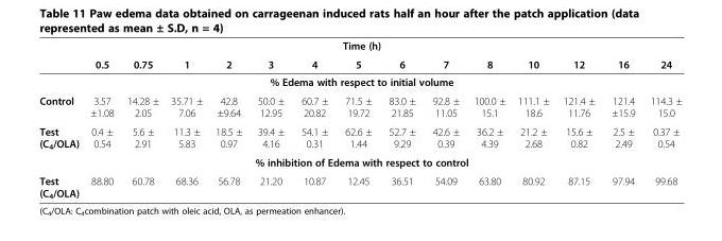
<table><tbody><tr><td colspan="15">Time (h)</td></tr><tr><td></td><td>0.5</td><td>0.75</td><td>1</td><td>2</td><td>3</td><td>4</td><td>5</td><td>6</td><td>7</td><td>8</td><td>10</td><td>12</td><td>16</td><td>24</td></tr><tr><td colspan="15">% Edema with respect to initial volume</td></tr><tr><td>Control</td><td>3.57 ±1.08</td><td>14.28 ± 2.05</td><td>35.71 ± 7.06</td><td>42.8 ±9.64</td><td>50.0 ± 12.95</td><td>60.7 ± 20.82</td><td>71.5 ± 19.72</td><td>83.0 ± 21.85</td><td>92.8 ± 11.05</td><td>100.0 ± 15.1</td><td>111.1 ± 18.6</td><td>121.4 ± 11.76</td><td>121.4 ±15.9</td><td>114.3 ± 15.0</td></tr><tr><td>Test (C<sub>4</sub>/OLA)</td><td>0.4 ± 0.54</td><td>5.6 ± 2.91</td><td>11.3 ± 5.83</td><td>18.5 ± 0.97</td><td>39.4 ± 4.16</td><td>54.1 ± 0.31</td><td>62.6 ± 1.44</td><td>52.7 ± 9.29</td><td>42.6 ± 0.39</td><td>36.2 ± 4.39</td><td>21.2 ± 2.68</td><td>15.6 ± 0.82</td><td>2.5 ± 2.49</td><td>0.37 ± 0.54</td></tr><tr><td colspan="15">% inhibition of Edema with respect to control</td></tr><tr><td>Test (C<sub>4</sub>/OLA)</td><td>88.80</td><td>60.78</td><td>68.36</td><td>56.78</td><td>21.20</td><td>10.87</td><td>12.45</td><td>36.51</td><td>54.09</td><td>63.80</td><td>80.92</td><td>87.15</td><td>97.94</td><td>99.68</td></tr></tbody></table>